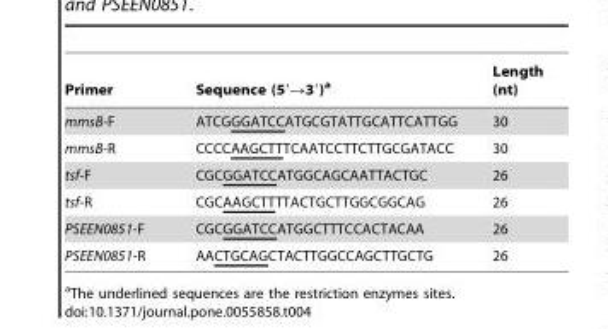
<table><thead><tr><td>Primer</td><td>Sequence (5′→3′)<sup>a</sup></td><td>Length (nt)</td></tr></thead><tbody><tr><td>mmsB-F</td><td>ATCGGGATCCATGCGTATTGCATTCATTGG</td><td>30</td></tr><tr><td>mmsB-R</td><td>CCCCAAGCTTTCAATCCTTCTTGCGATACC</td><td>30</td></tr><tr><td>tsf-F</td><td>CGCGGATCCATGGCAGCAATTACTGC</td><td>26</td></tr><tr><td>tsf-R</td><td>CGCAAGCTTTTACTGCTTGGCGGCAG</td><td>26</td></tr><tr><td>PSEEN0851-F</td><td>CGCGGATCCATGGCTTTCCACTACAA</td><td>26</td></tr><tr><td>PSEEN0851-R</td><td>AACTGCAGCTACTTGGCCAGCTTGCTG</td><td>26</td></tr></tbody></table>